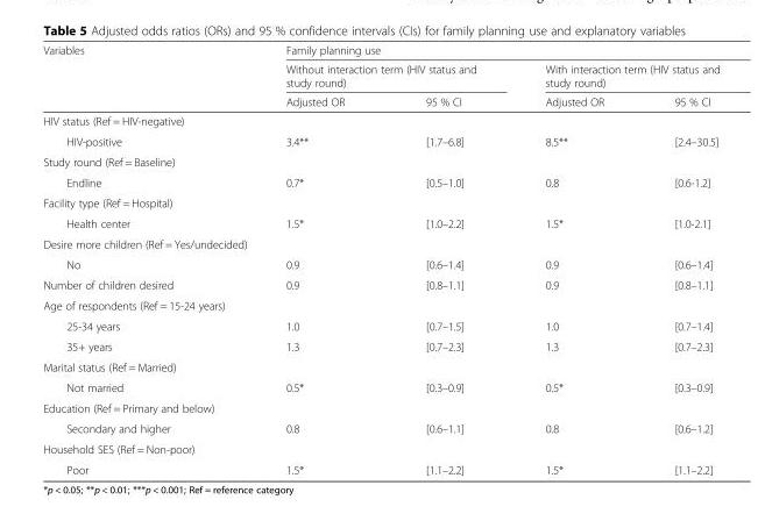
<table><thead><tr><td rowspan="3">Variables</td><td colspan="4">Family planning use</td></tr><tr><td colspan="2">Without interaction term (HIV status and study round)</td><td colspan="2">With interaction term (HIV status and study round)</td></tr><tr><td>Adjusted OR</td><td>95 % CI</td><td>Adjusted OR</td><td>95 % CI</td></tr></thead><tbody><tr><td colspan="5">HIV status (Ref = HIV-negative)</td></tr><tr><td>HIV-positive</td><td>3.4**</td><td>[1.7–6.8]</td><td>8.5**</td><td>[2.4–30.5]</td></tr><tr><td colspan="5">Study round (Ref = Baseline)</td></tr><tr><td>Endline</td><td>0.7*</td><td>[0.5–1.0]</td><td>0.8</td><td>[0.6-1.2]</td></tr><tr><td colspan="5">Facility type (Ref = Hospital)</td></tr><tr><td>Health center</td><td>1.5*</td><td>[1.0–2.2]</td><td>1.5*</td><td>[1.0-2.1]</td></tr><tr><td colspan="5">Desire more children (Ref = Yes/undecided)</td></tr><tr><td>No</td><td>0.9</td><td>[0.6–1.4]</td><td>0.9</td><td>[0.6–1.4]</td></tr><tr><td>Number of children desired</td><td>0.9</td><td>[0.8–1.1]</td><td>0.9</td><td>[0.8–1.1]</td></tr><tr><td colspan="5">Age of respondents (Ref = 15-24 years)</td></tr><tr><td>25-34 years</td><td>1.0</td><td>[0.7–1.5]</td><td>1.0</td><td>[0.7–1.4]</td></tr><tr><td>35+ years</td><td>1.3</td><td>[0.7–2.3]</td><td>1.3</td><td>[0.7–2.3]</td></tr><tr><td colspan="5">Marital status (Ref = Married)</td></tr><tr><td>Not married</td><td>0.5*</td><td>[0.3–0.9]</td><td>0.5*</td><td>[0.3–0.9]</td></tr><tr><td colspan="5">Education (Ref = Primary and below)</td></tr><tr><td>Secondary and higher</td><td>0.8</td><td>[0.6–1.1]</td><td>0.8</td><td>[0.6–1.2]</td></tr><tr><td colspan="5">Household SES (Ref = Non-poor)</td></tr><tr><td>Poor</td><td>1.5*</td><td>[1.1–2.2]</td><td>1.5*</td><td>[1.1–2.2]</td></tr></tbody></table>